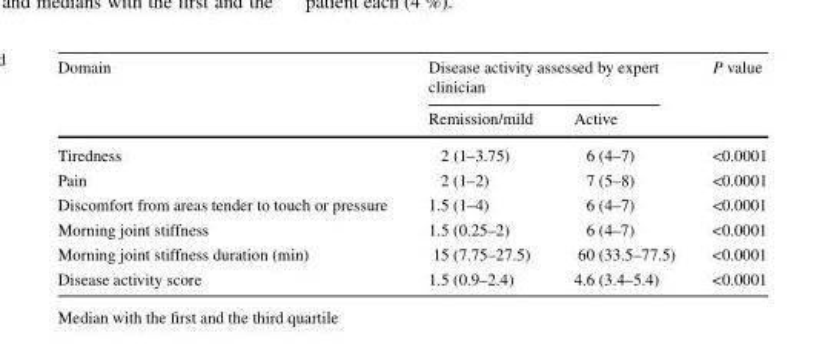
<table><thead><tr><td rowspan="2">Domain</td><td colspan="2">Disease activity assessed by expert clinician</td><td rowspan="2">P value</td></tr><tr><td>Remission/mild</td><td>Active</td></tr></thead><tbody><tr><td>Tiredness</td><td>2 (1–3.75)</td><td>6 (4–7)</td><td>&lt;0.0001</td></tr><tr><td>Pain</td><td>2 (1–2)</td><td>7 (5–8)</td><td>&lt;0.0001</td></tr><tr><td>Discomfort from areas tender to touch or pressure</td><td>1.5 (1–4)</td><td>6 (4–7)</td><td>&lt;0.0001</td></tr><tr><td>Morning joint stiffness</td><td>1.5 (0.25–2)</td><td>6 (4–7)</td><td>&lt;0.0001</td></tr><tr><td>Morning joint stiffness duration (min)</td><td>15 (7.75–27.5)</td><td>60 (33.5–77.5)</td><td>&lt;0.0001</td></tr><tr><td>Disease activity score</td><td>1.5 (0.9–2.4)</td><td>4.6 (3.4–5.4)</td><td>&lt;0.0001</td></tr></tbody></table>